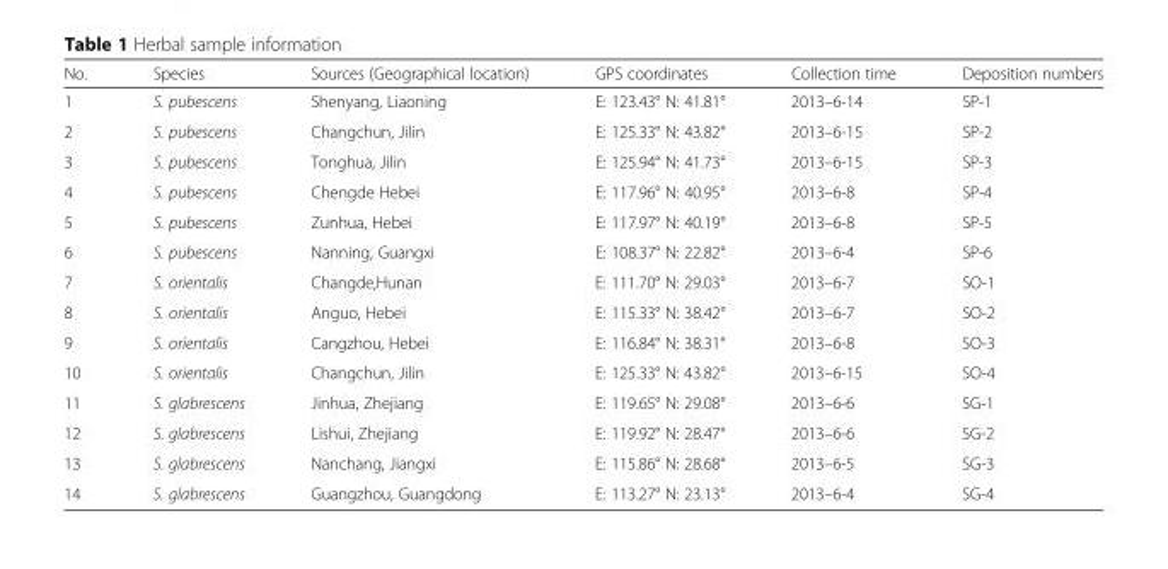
<table><thead><tr><td>No.</td><td>Species</td><td>Sources (Geographical location)</td><td>GPS coordinates</td><td>Collection time</td><td>Deposition numbers</td></tr></thead><tbody><tr><td>1</td><td>S. pubescens</td><td>Shenyang, Liaoning</td><td>E: 123.43° N: 41.81°</td><td>2013–6-14</td><td>SP-1</td></tr><tr><td>2</td><td>S. pubescens</td><td>Changchun, Jilin</td><td>E: 125.33° N: 43.82°</td><td>2013–6-15</td><td>SP-2</td></tr><tr><td>3</td><td>S. pubescens</td><td>Tonghua, Jilin</td><td>E: 125.94° N: 41.73°</td><td>2013–6-15</td><td>SP-3</td></tr><tr><td>4</td><td>S. pubescens</td><td>Chengde Hebei</td><td>E: 117.96° N: 40.95°</td><td>2013–6-8</td><td>SP-4</td></tr><tr><td>5</td><td>S. pubescens</td><td>Zunhua, Hebei</td><td>E: 117.97° N: 40.19°</td><td>2013–6-8</td><td>SP-5</td></tr><tr><td>6</td><td>S. pubescens</td><td>Nanning, Guangxi</td><td>E: 108.37° N: 22.82°</td><td>2013–6-4</td><td>SP-6</td></tr><tr><td>7</td><td>S. orientalis</td><td>Changde,Hunan</td><td>E: 111.70° N: 29.03°</td><td>2013–6-7</td><td>SO-1</td></tr><tr><td>8</td><td>S. orientalis</td><td>Anguo, Hebei</td><td>E: 115.33° N: 38.42°</td><td>2013–6-7</td><td>SO-2</td></tr><tr><td>9</td><td>S. orientalis</td><td>Cangzhou, Hebei</td><td>E: 116.84° N: 38.31°</td><td>2013–6-8</td><td>SO-3</td></tr><tr><td>10</td><td>S. orientalis</td><td>Changchun, Jilin</td><td>E: 125.33° N: 43.82°</td><td>2013–6-15</td><td>SO-4</td></tr><tr><td>11</td><td>S. glabrescens</td><td>Jinhua, Zhejiang</td><td>E: 119.65° N: 29.08°</td><td>2013–6-6</td><td>SG-1</td></tr><tr><td>12</td><td>S. glabrescens</td><td>Lishui, Zhejiang</td><td>E: 119.92° N: 28.47°</td><td>2013–6-6</td><td>SG-2</td></tr><tr><td>13</td><td>S. glabrescens</td><td>Nanchang, Jiangxi</td><td>E: 115.86° N: 28.68°</td><td>2013–6-5</td><td>SG-3</td></tr><tr><td>14</td><td>S. glabrescens</td><td>Guangzhou, Guangdong</td><td>E: 113.27° N: 23.13°</td><td>2013–6-4</td><td>SG-4</td></tr></tbody></table>